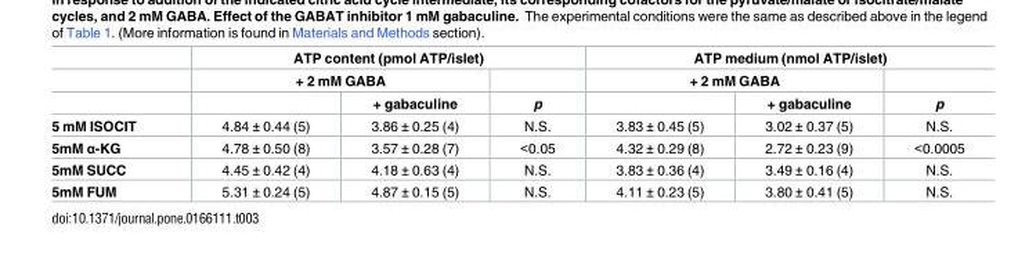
<table><thead><tr><td rowspan="3"></td><td colspan="3">ATP content (pmol ATP/islet)</td><td colspan="3">ATP medium (nmol ATP/islet)</td></tr><tr><td colspan="2">+ 2 mM GABA</td><td rowspan="2">p</td><td colspan="2">+ 2 mM GABA</td><td rowspan="2">p</td></tr><tr><td></td><td>+ gabaculine</td><td></td><td>+ gabaculine</td></tr></thead><tbody><tr><td>5 mM ISOCIT</td><td>4.84 ± 0.44 (5)</td><td>3.86 ± 0.25 (4)</td><td>N.S.</td><td>3.83 ± 0.45 (5)</td><td>3.02 ± 0.37 (5)</td><td>N.S.</td></tr><tr><td>5mM α-KG</td><td>4.78 ± 0.50 (8)</td><td>3.57 ± 0.28 (7)</td><td>&lt;0.05</td><td>4.32 ± 0.29 (8)</td><td>2.72 ± 0.23 (9)</td><td>&lt;0.0005</td></tr><tr><td>5mM SUCC</td><td>4.45 ± 0.42 (4)</td><td>4.18 ± 0.63 (4)</td><td>N.S.</td><td>3.83 ± 0.36 (4)</td><td>3.49 ± 0.16 (4)</td><td>N.S.</td></tr><tr><td>5mM FUM</td><td>5.31 ± 0.24 (5)</td><td>4.87 ± 0.15 (5)</td><td>N.S.</td><td>4.11 ± 0.23 (5)</td><td>3.80 ± 0.41 (5)</td><td>N.S.</td></tr></tbody></table>